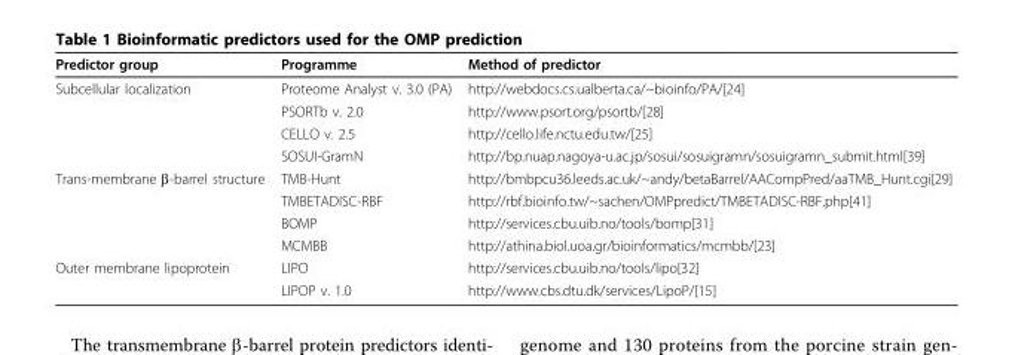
<table><thead><tr><td>Predictor group</td><td>Programme</td><td>Method of predictor</td></tr></thead><tbody><tr><td rowspan="4">Subcellular localization</td><td>Proteome Analyst v. 3.0 (PA)</td><td>http://webdocs.cs.ualberta.ca/~bioinfo/PA/[24]</td></tr><tr><td>PSORTb v. 2.0</td><td>http://www.psort.org/psortb/[28]</td></tr><tr><td>CELLO v. 2.5</td><td>http://cello.life.nctu.edu.tw/[25]</td></tr><tr><td>SOSUI-GramN</td><td>http://bp.nuap.nagoya-u.ac.jp/sosui/sosuigramn/sosuigramn_submit.html[39]</td></tr><tr><td rowspan="4">Trans-membrane β-barrel structure</td><td>TMB-Hunt</td><td>http://bmbpcu36.leeds.ac.uk/~andy/betaBarrel/AACompPred/aaTMB_Hunt.cgi[29]</td></tr><tr><td>TMBETADISC-RBF</td><td>http://rbf.bioinfo.tw/~sachen/OMPpredict/TMBETADISC-RBF.php[41]</td></tr><tr><td>BOMP</td><td>http://services.cbu.uib.no/tools/bomp[31]</td></tr><tr><td>MCMBB</td><td>http://athina.biol.uoa.gr/bioinformatics/mcmbb/[23]</td></tr><tr><td rowspan="2">Outer membrane lipoprotein</td><td>LIPO</td><td>http://services.cbu.uib.no/tools/lipo[32]</td></tr><tr><td>LIPOP v. 1.0</td><td>http://www.cbs.dtu.dk/services/LipoP/[15]</td></tr></tbody></table>